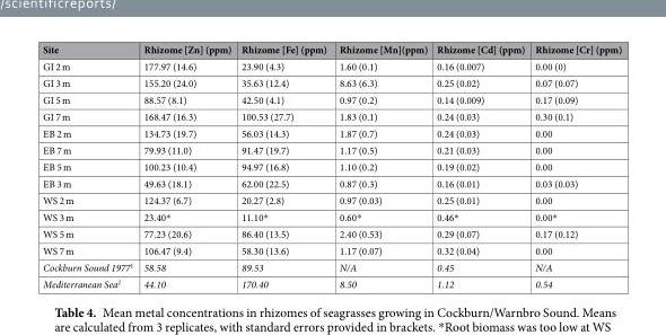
<table><thead><tr><td>Site</td><td>Rhizome [Zn] (ppm)</td><td>Rhizome [Fe] (ppm)</td><td>Rhizome [Mn](ppm)</td><td>Rhizome [Cd] (ppm)</td><td>Rhizome [Cr] (ppm)</td></tr></thead><tbody><tr><td>GI 2 m</td><td>177.97 (14.6)</td><td>23.90 (4.3)</td><td>1.60 (0.1)</td><td>0.16 (0.007)</td><td>0.00 (0)</td></tr><tr><td>GI 3 m</td><td>155.20 (24.0)</td><td>35.63 (12.4)</td><td>8.63 (6.3)</td><td>0.25 (0.02)</td><td>0.07 (0.07)</td></tr><tr><td>GI 5 m</td><td>88.57 (8.1)</td><td>42.50 (4.1)</td><td>0.97 (0.2)</td><td>0.14 (0.009)</td><td>0.17 (0.09)</td></tr><tr><td>GI 7 m</td><td>168.47 (16.3)</td><td>100.53 (27.7)</td><td>1.83 (0.1)</td><td>0.24 (0.03)</td><td>0.30 (0.1)</td></tr><tr><td>EB 2 m</td><td>134.73 (19.7)</td><td>56.03 (14.3)</td><td>1.87 (0.7)</td><td>0.24 (0.03)</td><td>0.00</td></tr><tr><td>EB 7 m</td><td>79.93 (11.0)</td><td>91.47 (19.7)</td><td>1.17 (0.5)</td><td>0.21 (0.03)</td><td>0.00</td></tr><tr><td>EB 5 m</td><td>100.23 (10.4)</td><td>94.97 (16.8)</td><td>1.10 (0.2)</td><td>0.19 (0.02)</td><td>0.00</td></tr><tr><td>EB 3 m</td><td>49.63 (18.1)</td><td>62.00 (22.5)</td><td>0.87 (0.3)</td><td>0.16 (0.01)</td><td>0.03 (0.03)</td></tr><tr><td>WS 2 m</td><td>124.37 (6.7)</td><td>20.27 (2.8)</td><td>0.97 (0.03)</td><td>0.25 (0.01)</td><td>0.00</td></tr><tr><td>WS 3 m</td><td>23.40*</td><td>11.10*</td><td>0.60*</td><td>0.46*</td><td>0.00*</td></tr><tr><td>WS 5 m</td><td>77.23 (20.6)</td><td>86.40 (13.5)</td><td>2.40 (0.53)</td><td>0.29 (0.07)</td><td>0.17 (0.12)</td></tr><tr><td>WS 7 m</td><td>106.47 (9.4)</td><td>58.30 (13.6)</td><td>1.17 (0.07)</td><td>0.32 (0.04)</td><td>0.00</td></tr><tr><td>Cockburn Sound 1977<sup>1</sup></td><td>58.58</td><td>89.53</td><td>N/A</td><td>0.45</td><td>N/A</td></tr><tr><td>Mediterranean Sea<sup>2</sup></td><td>44.10</td><td>170.40</td><td>8.50</td><td>1.12</td><td>0.54</td></tr></tbody></table>